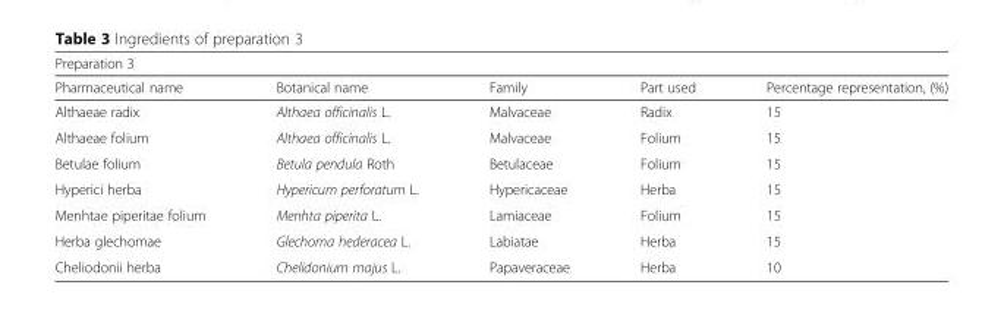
<table><thead><tr><td colspan="5">Preparation 3</td></tr><tr><td>Pharmaceutical name</td><td>Botanical name</td><td>Family</td><td>Part used</td><td>Percentage representation, (%)</td></tr></thead><tbody><tr><td>Althaeae radix</td><td>Althaea officinalis L.</td><td>Malvaceae</td><td>Radix</td><td>15</td></tr><tr><td>Althaeae folium</td><td>Althaea officinalis L.</td><td>Malvaceae</td><td>Folium</td><td>15</td></tr><tr><td>Betulae folium</td><td>Betula pendula Roth</td><td>Betulaceae</td><td>Folium</td><td>15</td></tr><tr><td>Hyperici herba</td><td>Hypericum perforatum L.</td><td>Hypericaceae</td><td>Herba</td><td>15</td></tr><tr><td>Menhtae piperitae folium</td><td>Menhta piperita L.</td><td>Lamiaceae</td><td>Folium</td><td>15</td></tr><tr><td>Herba glechomae</td><td>Glechoma hederacea L.</td><td>Labiatae</td><td>Herba</td><td>15</td></tr><tr><td>Cheliodonii herba</td><td>Chelidonium majus L.</td><td>Papaveraceae</td><td>Herba</td><td>10</td></tr></tbody></table>